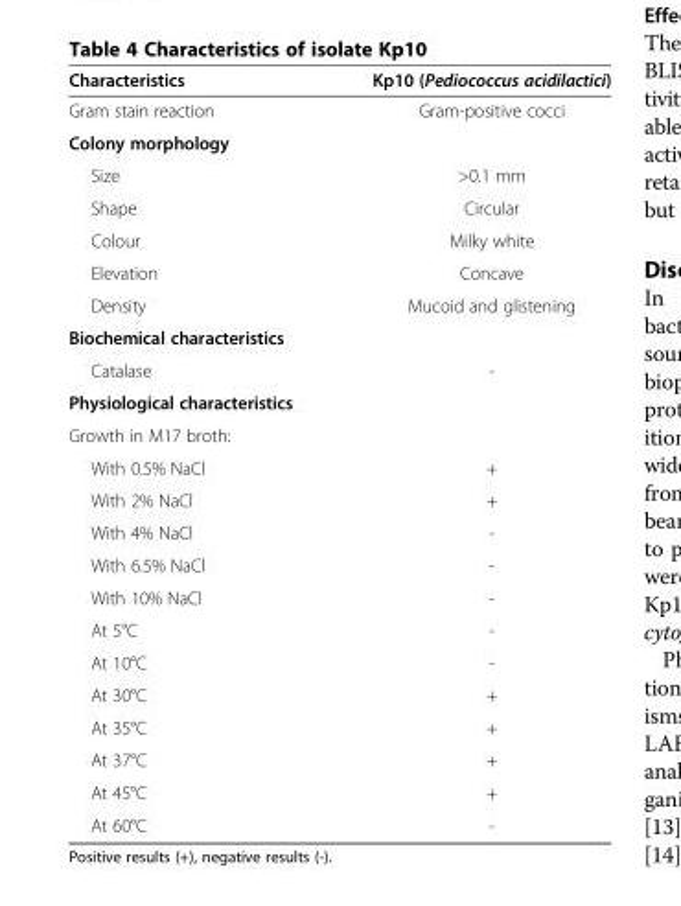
<table><thead><tr><td>Characteristics</td><td>Kp10 (Pediococcus acidilactici)</td></tr></thead><tbody><tr><td>Gram stain reaction</td><td>Gram-positive cocci</td></tr><tr><td colspan="2">Colony morphology</td></tr><tr><td>Size</td><td>&gt;0.1 mm</td></tr><tr><td>Shape</td><td>Circular</td></tr><tr><td>Colour</td><td>Milky white</td></tr><tr><td>Elevation</td><td>Concave</td></tr><tr><td>Density</td><td>Mucoid and glistening</td></tr><tr><td colspan="2">Biochemical characteristics</td></tr><tr><td>Catalase</td><td>-</td></tr><tr><td colspan="2">Physiological characteristics</td></tr><tr><td colspan="2">Growth in M17 broth:</td></tr><tr><td>With 0.5% NaCl</td><td>+</td></tr><tr><td>With 2% NaCl</td><td>+</td></tr><tr><td>With 4% NaCl</td><td>-</td></tr><tr><td>With 6.5% NaCl</td><td>-</td></tr><tr><td>With 10% NaCl</td><td>-</td></tr><tr><td>At 5°C</td><td>-</td></tr><tr><td>At 10°C</td><td>-</td></tr><tr><td>At 30°C</td><td>+</td></tr><tr><td>At 35°C</td><td>+</td></tr><tr><td>At 37°C</td><td>+</td></tr><tr><td>At 45°C</td><td>+</td></tr><tr><td>At 60°C</td><td>-</td></tr></tbody></table>